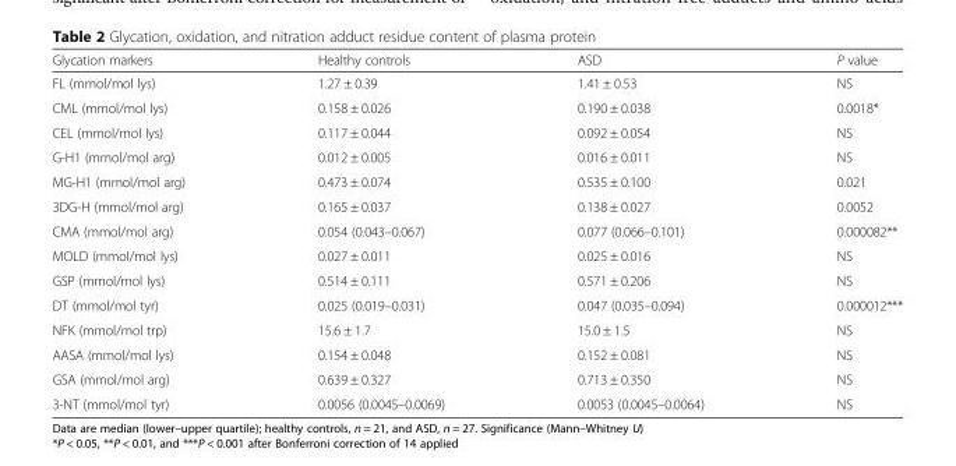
<table><thead><tr><td>Glycation markers</td><td>Healthy controls</td><td>ASD</td><td>P value</td></tr></thead><tbody><tr><td>FL (mmol/mol lys)</td><td>1.27 ± 0.39</td><td>1.41 ± 0.53</td><td>NS</td></tr><tr><td>CML (mmol/mol lys)</td><td>0.158 ± 0.026</td><td>0.190 ± 0.038</td><td>0.0018*</td></tr><tr><td>CEL (mmol/mol lys)</td><td>0.117 ± 0.044</td><td>0.092 ± 0.054</td><td>NS</td></tr><tr><td>G-H1 (mmol/mol arg)</td><td>0.012 ± 0.005</td><td>0.016 ± 0.011</td><td>NS</td></tr><tr><td>MG-H1 (mmol/mol arg)</td><td>0.473 ± 0.074</td><td>0.535 ± 0.100</td><td>0.021</td></tr><tr><td>3DG-H (mmol/mol arg)</td><td>0.165 ± 0.037</td><td>0.138 ± 0.027</td><td>0.0052</td></tr><tr><td>CMA (mmol/mol arg)</td><td>0.054 (0.043–0.067)</td><td>0.077 (0.066–0.101)</td><td>0.000082**</td></tr><tr><td>MOLD (mmol/mol lys)</td><td>0.027 ± 0.011</td><td>0.025 ± 0.016</td><td>NS</td></tr><tr><td>GSP (mmol/mol lys)</td><td>0.514 ± 0.111</td><td>0.571 ± 0.206</td><td>NS</td></tr><tr><td>DT (mmol/mol tyr)</td><td>0.025 (0.019–0.031)</td><td>0.047 (0.035–0.094)</td><td>0.000012***</td></tr><tr><td>NFK (mmol/mol trp)</td><td>15.6 ± 1.7</td><td>15.0 ± 1.5</td><td>NS</td></tr><tr><td>AASA (mmol/mol lys)</td><td>0.154 ± 0.048</td><td>0.152 ± 0.081</td><td>NS</td></tr><tr><td>GSA (mmol/mol arg)</td><td>0.639 ± 0.327</td><td>0.713 ± 0.350</td><td>NS</td></tr><tr><td>3-NT (mmol/mol tyr)</td><td>0.0056 (0.0045–0.0069)</td><td>0.0053 (0.0045–0.0064)</td><td>NS</td></tr></tbody></table>